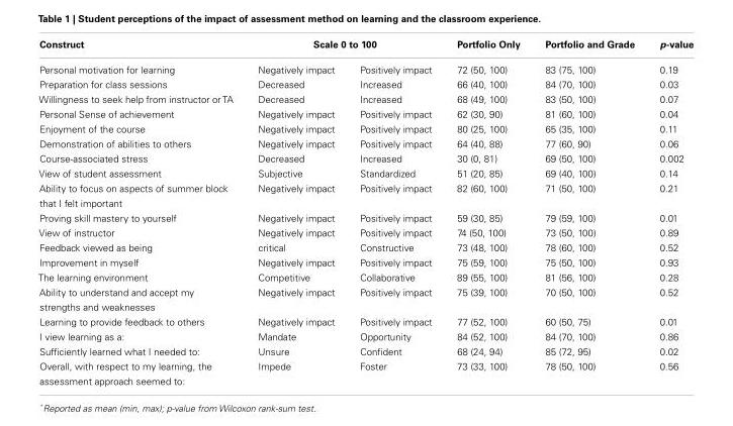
<table><thead><tr><td rowspan="2">Construct Personal motivation for learning</td><td colspan="2">Scale 0 to 100</td><td rowspan="2">Portfolio Only 72 (50, 100)</td><td rowspan="2">Portfolio and Grade 83 (75, 100)</td><td rowspan="2">p-value 0.19</td></tr><tr><td>Negatively impact</td><td>Positively impact</td></tr></thead><tbody><tr><td>Preparation for class sessions</td><td>Decreased</td><td>Increased</td><td>66 (40, 100)</td><td>84 (70, 100)</td><td>0.03</td></tr><tr><td>Willingness to seek help from instructor orTA</td><td>Decreased</td><td>Increased</td><td>68 (49, 100)</td><td>83 (50, 100)</td><td>0.07</td></tr><tr><td>Personal Sense of achievement</td><td>Negatively impact</td><td>Positively impact</td><td>62 (30, 90)</td><td>81 (60, 100)</td><td>0.04</td></tr><tr><td>Enjoyment of the course</td><td>Negatively impact</td><td>Positively impact</td><td>80 (25, 100)</td><td>65 (35, 100)</td><td>0.11</td></tr><tr><td>Demonstration of abilities to others</td><td>Negatively impact</td><td>Positively impact</td><td>64 (40, 88)</td><td>77 (60, 90)</td><td>0.06</td></tr><tr><td>Course-associated stress</td><td>Decreased</td><td>Increased</td><td>30 (0, 81)</td><td>69 (50, 100)</td><td>0.002</td></tr><tr><td>View of student assessment</td><td>Subjective</td><td>Standardized</td><td>51 (20, 85)</td><td>69 (40, 100)</td><td>0.14</td></tr><tr><td>Ability to focus on aspects of summer block that I felt important</td><td>Negatively impact</td><td>Positively impact</td><td>82 (60, 100)</td><td>71 (50, 100)</td><td>0.21</td></tr><tr><td>Proving skill mastery to yourself</td><td>Negatively impact</td><td>Positively impact</td><td>59 (30, 85)</td><td>79 (59, 100)</td><td>0.01</td></tr><tr><td>View of instructor</td><td>Negatively impact</td><td>Positively impact</td><td>74 (50, 100)</td><td>73 (50, 100)</td><td>0.89</td></tr><tr><td>Feedback viewed as being</td><td>critical</td><td>Constructive</td><td>73 (48, 100)</td><td>78 (60, 100)</td><td>0.52</td></tr><tr><td>Improvement in myself</td><td>Negatively impact</td><td>Positively impact</td><td>75 (59, 100)</td><td>75 (50, 100)</td><td>0.93</td></tr><tr><td>The learning environment</td><td>Competitive</td><td>Collaborative</td><td>89 (55, 100)</td><td>81 (56, 100)</td><td>0.28</td></tr><tr><td>Ability to understand and accept my strengths and weaknesses</td><td>Negatively impact</td><td>Positively impact</td><td>75 (39, 100)</td><td>70 (50, 100)</td><td>0.52</td></tr><tr><td>Learning to provide feedback to others</td><td>Negatively impact</td><td>Positively impact</td><td>77 (52, 100)</td><td>60 (50, 75)</td><td>0.01</td></tr><tr><td>I view learning as a:</td><td>Mandate</td><td>Opportunity</td><td>84 (52, 100)</td><td>84 (70, 100)</td><td>0.86</td></tr><tr><td>Sufficiently learned what I needed to:</td><td>Unsure</td><td>Confident</td><td>68 (24, 94)</td><td>85 (72, 95)</td><td>0.02</td></tr><tr><td>Overall, with respect to my learning, the assessment approach seemed to:</td><td>Impede</td><td>Foster</td><td>73 (33, 100)</td><td>78 (50, 100)</td><td>0.56</td></tr></tbody></table>